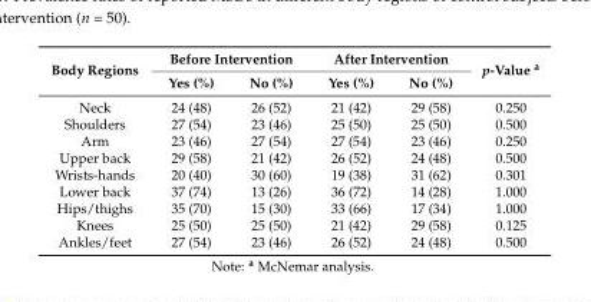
<table><thead><tr><td rowspan="2">Body Regions</td><td colspan="2">Before Intervention</td><td colspan="2">After Intervention</td><td rowspan="2">p-Value <sup>a</sup></td></tr><tr><td>Yes (%)</td><td>No (%)</td><td>Yes (%)</td><td>No (%)</td></tr></thead><tbody><tr><td>Neck</td><td>24 (48)</td><td>26 (52)</td><td>21 (42)</td><td>29 (58)</td><td>0.250</td></tr><tr><td>Shoulders</td><td>27 (54)</td><td>23 (46)</td><td>25 (50)</td><td>25 (50)</td><td>0.500</td></tr><tr><td>Arm</td><td>23 (46)</td><td>27 (54)</td><td>27 (54)</td><td>23 (46)</td><td>0.250</td></tr><tr><td>Upper back</td><td>29 (58)</td><td>21 (42)</td><td>26 (52)</td><td>24 (48)</td><td>0.500</td></tr><tr><td>Wrists-hands</td><td>20 (40)</td><td>30 (60)</td><td>19 (38)</td><td>31 (62)</td><td>0.301</td></tr><tr><td>Lower back</td><td>37 (74)</td><td>13 (26)</td><td>36 (72)</td><td>14 (28)</td><td>1.000</td></tr><tr><td>Hips/thighs</td><td>35 (70)</td><td>15 (30)</td><td>33 (66)</td><td>17 (34)</td><td>1.000</td></tr><tr><td>Knees</td><td>25 (50)</td><td>25 (50)</td><td>21 (42)</td><td>29 (58)</td><td>0.125</td></tr><tr><td>Ankles/feet</td><td>27 (54)</td><td>23 (46)</td><td>26 (52)</td><td>24 (48)</td><td>0.500</td></tr></tbody></table>